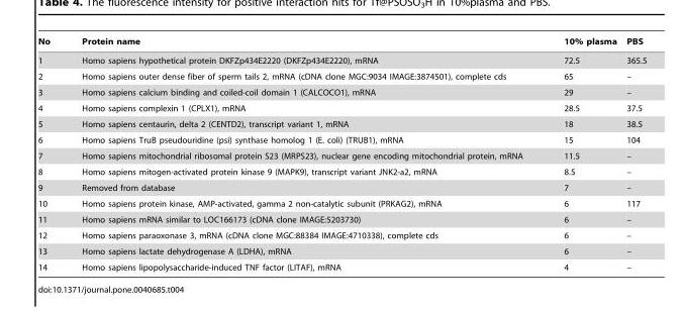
<table><thead><tr><td>No</td><td>Protein name</td><td>10% plasma</td><td>PBS</td></tr></thead><tbody><tr><td>1</td><td>Homo sapiens hypothetical protein DKFZp434E2220 (DKFZp434E2220), mRNA</td><td>72.5</td><td>365.5</td></tr><tr><td>2</td><td>Homo sapiens outer dense fiber of sperm tails 2, mRNA (cDNA clone MGC:9034 IMAGE:3874501), complete cds</td><td>65</td><td>–</td></tr><tr><td>3</td><td>Homo sapiens calcium binding and coiled-coil domain 1 (CALCOCO1), mRNA</td><td>29</td><td>–</td></tr><tr><td>4</td><td>Homo sapiens complexin 1 (CPLX1), mRNA</td><td>28.5</td><td>37.5</td></tr><tr><td>5</td><td>Homo sapiens centaurin, delta 2 (CENTD2), transcript variant 1, mRNA</td><td>18</td><td>38.5</td></tr><tr><td>6</td><td>Homo sapiens TruB pseudouridine (psi) synthase homolog 1 (E. coli) (TRUB1), mRNA</td><td>15</td><td>104</td></tr><tr><td>7</td><td>Homo sapiens mitochondrial ribosomal protein S23 (MRPS23), nuclear gene encoding mitochondrial protein, mRNA</td><td>11.5</td><td>–</td></tr><tr><td>8</td><td>Homo sapiens mitogen-activated protein kinase 9 (MAPK9), transcript variant JNK2-a2, mRNA</td><td>8.5</td><td>–</td></tr><tr><td>9</td><td>Removed from database</td><td>7</td><td>–</td></tr><tr><td>10</td><td>Homo sapiens protein kinase, AMP-activated, gamma 2 non-catalytic subunit (PRKAG2), mRNA</td><td>6</td><td>117</td></tr><tr><td>11</td><td>Homo sapiens mRNA similar to LOC166173 (cDNA clone IMAGE:5203730)</td><td>6</td><td>–</td></tr><tr><td>12</td><td>Homo sapiens paraoxonase 3, mRNA (cDNA clone MGC:88384 IMAGE:4710338), complete cds</td><td>6</td><td>–</td></tr><tr><td>13</td><td>Homo sapiens lactate dehydrogenase A (LDHA), mRNA</td><td>6</td><td>–</td></tr><tr><td>14</td><td>Homo sapiens lipopolysaccharide-induced TNF factor (LITAF), mRNA</td><td>4</td><td>–</td></tr></tbody></table>